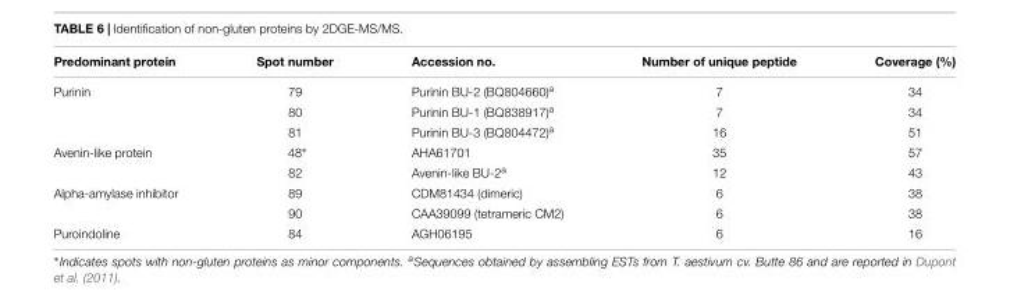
<table><thead><tr><td>Predominant protein</td><td>Spot number</td><td>Accession no.</td><td>Number of unique peptide</td><td>Coverage (%)</td></tr></thead><tbody><tr><td rowspan="3">Purinin</td><td>79</td><td>Purinin BU-2 (BQ804660)<sup>a</sup></td><td>7</td><td>34</td></tr><tr><td>80</td><td>Purinin BU-1 (BQ838917)<sup>a</sup></td><td>7</td><td>34</td></tr><tr><td>81</td><td>Purinin BU-3 (BQ804472)<sup>a</sup></td><td>16</td><td>51</td></tr><tr><td rowspan="2">Avenin-like protein</td><td>48∗</td><td>AHA61701</td><td>35</td><td>57</td></tr><tr><td>82</td><td>Avenin-like BU-2<sup>a</sup></td><td>12</td><td>43</td></tr><tr><td rowspan="2">Alpha-amylase inhibitor</td><td>89</td><td>CDM81434 (dimeric)</td><td>6</td><td>38</td></tr><tr><td>90</td><td>CAA39099 (tetrameric CM2)</td><td>6</td><td>38</td></tr><tr><td>Puroindoline</td><td>84</td><td>AGH06195</td><td>6</td><td>16</td></tr></tbody></table>